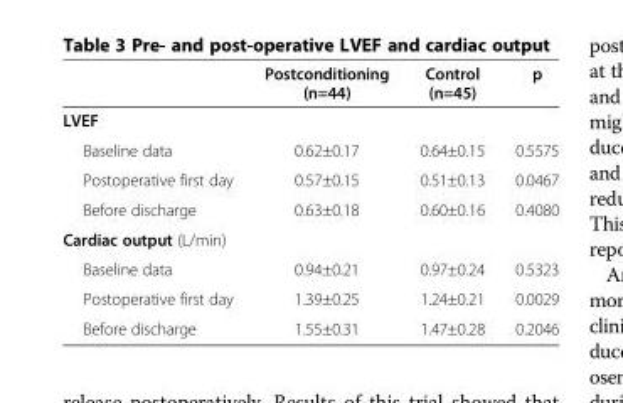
<table><thead><tr><td></td><td>Postconditioning (n=44)</td><td>Control (n=45)</td><td>p</td></tr></thead><tbody><tr><td colspan="4">LVEF</td></tr><tr><td>Baseline data</td><td>0.62±0.17</td><td>0.64±0.15</td><td>0.5575</td></tr><tr><td>Postoperative first day</td><td>0.57±0.15</td><td>0.51±0.13</td><td>0.0467</td></tr><tr><td>Before discharge</td><td>0.63±0.18</td><td>0.60±0.16</td><td>0.4080</td></tr><tr><td colspan="4">Cardiac output (L/min)</td></tr><tr><td>Baseline data</td><td>0.94±0.21</td><td>0.97±0.24</td><td>0.5323</td></tr><tr><td>Postoperative first day</td><td>1.39±0.25</td><td>1.24±0.21</td><td>0.0029</td></tr><tr><td>Before discharge</td><td>1.55±0.31</td><td>1.47±0.28</td><td>0.2046</td></tr></tbody></table>